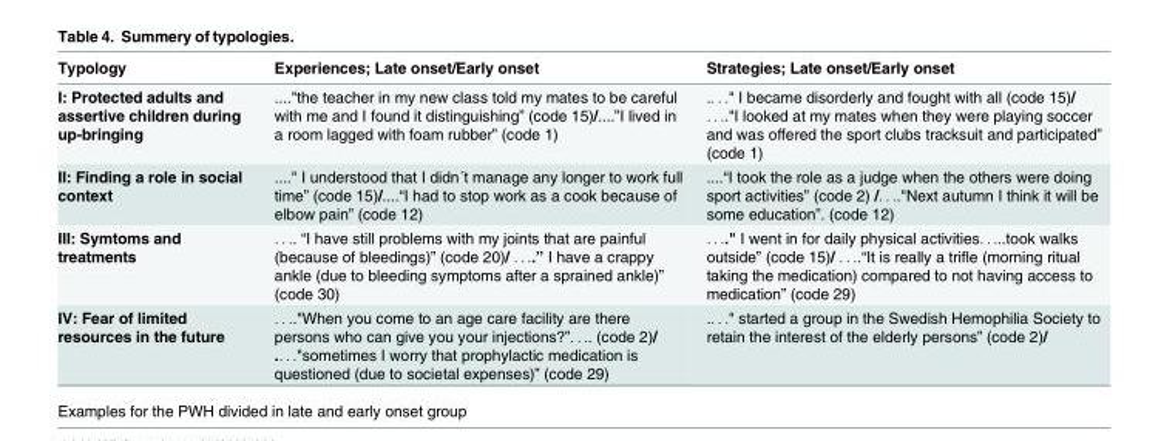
<table><thead><tr><td>Typology</td><td>Experiences; Late onset/Early onset</td><td>Strategies; Late onset/Early onset</td></tr></thead><tbody><tr><td>I: Protected adults and assertive children during up-bringing</td><td>....&quot;the teacher in my new class told my mates to be careful with me and I found it distinguishing” (code 15)/....”I lived in a room lagged with foam rubber” (code 1)</td><td>.. . .&quot; I became disorderly and fought with all (code 15)/ . . ..&quot;I looked at my mates when they were playing soccer and was offered the sport clubs tracksuit and participated” (code 1)</td></tr><tr><td>II: Finding a role in social context</td><td>....&quot; I understood that I didn´t manage any longer to work full time” (code 15)/....“I had to stop work as a cook because of elbow pain” (code 12)</td><td>....“I took the role as a judge when the others were doing sport activities” (code 2) /. . ..&quot;Next autumn I think it will be some education”. (code 12)</td></tr><tr><td>III: Symtoms and treatments</td><td>. . .. “I have still problems with my joints that are painful (because of bleedings)” (code 20)/ . . ..” I have a crappy ankle (due to bleeding symptoms after a sprained ankle)” (code 30)</td><td>. . ..&quot; I went in for daily physical activities. . ...took walks outside” (code 15)/ . . ..“It is really a trifle (morning ritual taking the medication) compared to not having access to medication” (code 29)</td></tr><tr><td>IV: Fear of limited resources in the future</td><td>. . ..&quot;When you come to an age care facility are there persons who can give you your injections?”. . .. (code 2)/ .. . .&quot;sometimes I worry that prophylactic medication is questioned (due to societal expenses)” (code 29)</td><td>.. . .&quot; started a group in the Swedish Hemophilia Society to retain the interest of the elderly persons” (code 2)/</td></tr></tbody></table>